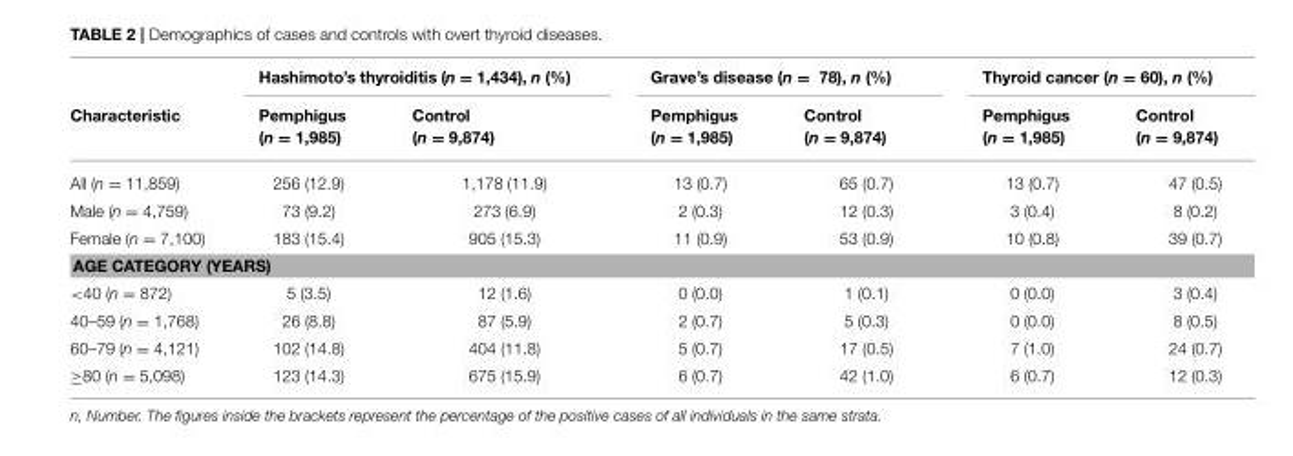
<table><thead><tr><td rowspan="2">Characteristic</td><td colspan="2">Hashimoto’s thyroiditis (n = 1,434), n (%)</td><td colspan="2">Grave’s disease (n = 78), n (%)</td><td colspan="2">Thyroid cancer (n = 60), n (%)</td></tr><tr><td>Pemphigus (n = 1,985)</td><td>Control (n = 9,874)</td><td>Pemphigus (n = 1,985)</td><td>Control (n = 9,874)</td><td>Pemphigus (n = 1,985)</td><td>Control (n = 9,874)</td></tr></thead><tbody><tr><td>All (n = 11,859)</td><td>256 (12.9)</td><td>1,178 (11.9)</td><td>13 (0.7)</td><td>65 (0.7)</td><td>13 (0.7)</td><td>47 (0.5)</td></tr><tr><td>Male (n = 4,759)</td><td>73 (9.2)</td><td>273 (6.9)</td><td>2 (0.3)</td><td>12 (0.3)</td><td>3 (0.4)</td><td>8 (0.2)</td></tr><tr><td>Female (n = 7,100)</td><td>183 (15.4)</td><td>905 (15.3)</td><td>11 (0.9)</td><td>53 (0.9)</td><td>10 (0.8)</td><td>39 (0.7)</td></tr><tr><td colspan="7">AGE CATEGORY (YEARS)</td></tr><tr><td>&lt;40 (n = 872)</td><td>5 (3.5)</td><td>12 (1.6)</td><td>0 (0.0)</td><td>1 (0.1)</td><td>0 (0.0)</td><td>3 (0.4)</td></tr><tr><td>40–59 (n = 1,768)</td><td>26 (8.8)</td><td>87 (5.9)</td><td>2 (0.7)</td><td>5 (0.3)</td><td>0 (0.0)</td><td>8 (0.5)</td></tr><tr><td>60–79 (n = 4,121)</td><td>102 (14.8)</td><td>404 (11.8)</td><td>5 (0.7)</td><td>17 (0.5)</td><td>7 (1.0)</td><td>24 (0.7)</td></tr><tr><td>≥80 (n = 5,098)</td><td>123 (14.3)</td><td>675 (15.9)</td><td>6 (0.7)</td><td>42 (1.0)</td><td>6 (0.7)</td><td>12 (0.3)</td></tr></tbody></table>